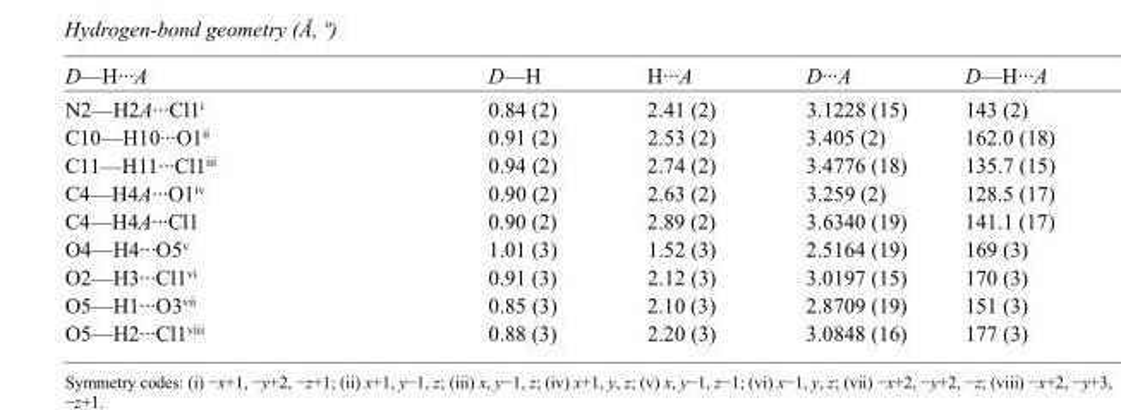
<table><tbody><tr><td>D—H···A</td><td>D—H</td><td>H···A</td><td>D···A</td><td>D—H···A</td></tr><tr><td>N2—H2A···Cl1<sup>i</sup></td><td>0.84 (2)</td><td>2.41 (2)</td><td>3.1228 (15)</td><td>143 (2)</td></tr><tr><td>C10—H10···O1<sup>ii</sup></td><td>0.91 (2)</td><td>2.53 (2)</td><td>3.405 (2)</td><td>162.0 (18)</td></tr><tr><td>C11—H11···Cl1<sup>iii</sup></td><td>0.94 (2)</td><td>2.74 (2)</td><td>3.4776 (18)</td><td>135.7 (15)</td></tr><tr><td>C4—H4A···O1<sup>iv</sup></td><td>0.90 (2)</td><td>2.63 (2)</td><td>3.259 (2)</td><td>128.5 (17)</td></tr><tr><td>C4—H4A···Cl1</td><td>0.90 (2)</td><td>2.89 (2)</td><td>3.6340 (19)</td><td>141.1 (17)</td></tr><tr><td>O4—H4···O5<sup>v</sup></td><td>1.01 (3)</td><td>1.52 (3)</td><td>2.5164 (19)</td><td>169 (3)</td></tr><tr><td>O2—H3···Cl1<sup>vi</sup></td><td>0.91 (3)</td><td>2.12 (3)</td><td>3.0197 (15)</td><td>170 (3)</td></tr><tr><td>O5—H1···O3<sup>vii</sup></td><td>0.85 (3)</td><td>2.10 (3)</td><td>2.8709 (19)</td><td>151 (3)</td></tr><tr><td>O5—H2···Cl1<sup>viii</sup></td><td>0.88 (3)</td><td>2.20 (3)</td><td>3.0848 (16)</td><td>177 (3)</td></tr></tbody></table>